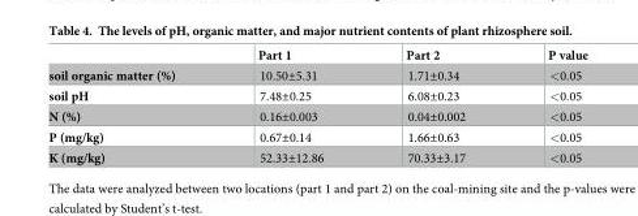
<table><thead><tr><td></td><td>Part 1</td><td>Part 2</td><td>P value</td></tr></thead><tbody><tr><td>soil organic matter (%)</td><td>10.50±5.31</td><td>1.71±0.34</td><td>&lt;0.05</td></tr><tr><td>soil pH</td><td>7.48±0.25</td><td>6.08±0.23</td><td>&lt;0.05</td></tr><tr><td>N (%)</td><td>0.16±0.003</td><td>0.04±0.002</td><td>&lt;0.05</td></tr><tr><td>P (mg/kg)</td><td>0.67±0.14</td><td>1.66±0.63</td><td>&lt;0.05</td></tr><tr><td>K (mg/kg)</td><td>52.33±12.86</td><td>70.33±3.17</td><td>&lt;0.05</td></tr></tbody></table>